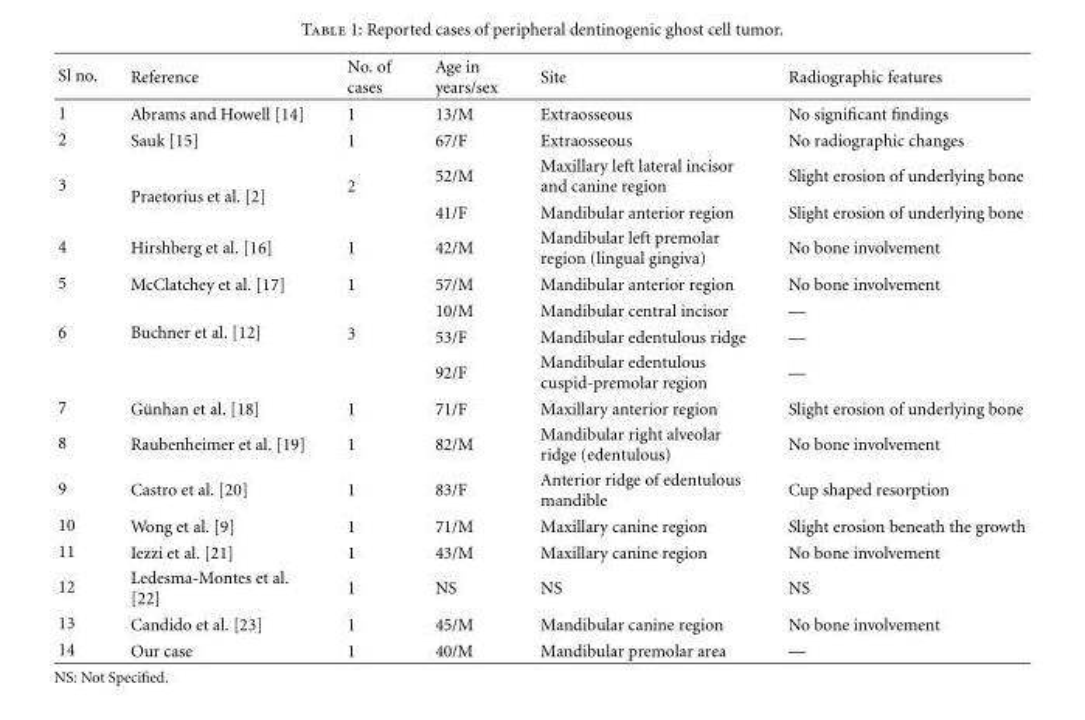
<table><thead><tr><td>Sl no.</td><td>Reference</td><td>No. of cases</td><td>Age in years/sex</td><td>Site</td><td>Radiographic features</td></tr></thead><tbody><tr><td>1</td><td>Abrams and Howell [14]</td><td>1</td><td>13/M</td><td>Extraosseous</td><td>No significant findings</td></tr><tr><td>2</td><td>Sauk [15]</td><td>1</td><td>67/F</td><td>Extraosseous</td><td>No radiographic changes</td></tr><tr><td rowspan="2">3</td><td rowspan="2">Praetorius et al. [2]</td><td rowspan="2">2</td><td>52/M</td><td>Maxillary left lateral incisor and canine region</td><td>Slight erosion of underlying bone</td></tr><tr><td>41/F</td><td>Mandibular anterior region</td><td>Slight erosion of underlying bone</td></tr><tr><td>4</td><td>Hirshberg et al. [16]</td><td>1</td><td>42/M</td><td>Mandibular left premolar region (lingual gingiva)</td><td>No bone involvement</td></tr><tr><td>5</td><td>McClatchey et al. [17]</td><td>1</td><td>57/M</td><td>Mandibular anterior region</td><td>No bone involvement</td></tr><tr><td rowspan="3">6</td><td rowspan="3">Buchner et al. [12]</td><td rowspan="3">3</td><td>10/M</td><td>Mandibular central incisor</td><td>—</td></tr><tr><td>53/F</td><td>Mandibular edentulous ridge</td><td>—</td></tr><tr><td>92/F</td><td>Mandibular edentulous cuspid-premolar region</td><td>—</td></tr><tr><td>7</td><td>G¨unhan et al. [18]</td><td>1</td><td>71/F</td><td>Maxillary anterior region</td><td>Slight erosion of underlying bone</td></tr><tr><td>8</td><td>Raubenheimer et al. [19]</td><td>1</td><td>82/M</td><td>Mandibular right alveolar ridge (edentulous)</td><td>No bone involvement</td></tr><tr><td>9</td><td>Castro et al. [20]</td><td>1</td><td>83/F</td><td>Anterior ridge of edentulous mandible</td><td>Cup shaped resorption</td></tr><tr><td>10</td><td>Wong et al. [9]</td><td>1</td><td>71/M</td><td>Maxillary canine region</td><td>Slight erosion beneath the growth</td></tr><tr><td>11</td><td>Iezzi et al. [21]</td><td>1</td><td>43/M</td><td>Maxillary canine region</td><td>No bone involvement</td></tr><tr><td>12</td><td>Ledesma-Montes et al. [22]</td><td>1</td><td>NS</td><td>NS</td><td>NS</td></tr><tr><td>13</td><td>Candido et al. [23]</td><td>1</td><td>45/M</td><td>Mandibular canine region</td><td>No bone involvement</td></tr><tr><td>14</td><td>Our case</td><td>1</td><td>40/M</td><td>Mandibular premolar area</td><td>—</td></tr></tbody></table>